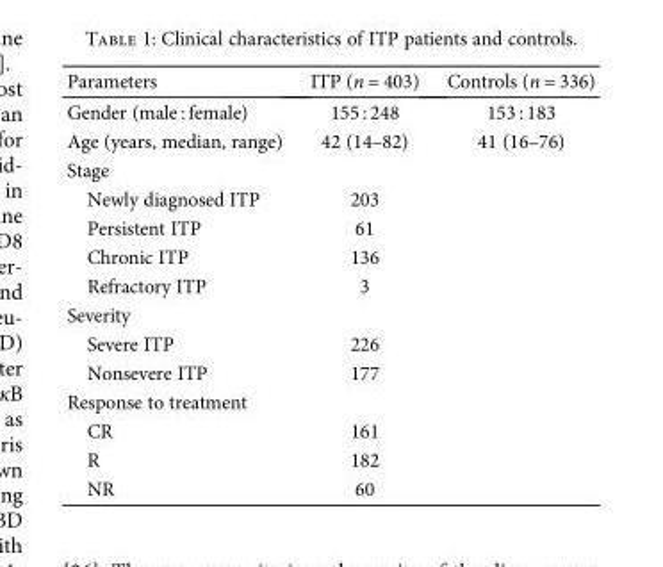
<table><thead><tr><td>Parameters</td><td>ITP (n = 403)</td><td>Controls (n = 336)</td></tr></thead><tbody><tr><td>Gender (male : female)</td><td>155 : 248</td><td>153 : 183</td></tr><tr><td>Age (years, median, range)</td><td>42 (14–82)</td><td>41 (16–76)</td></tr><tr><td colspan="3">Stage</td></tr><tr><td>Newly diagnosed ITP</td><td>203</td><td></td></tr><tr><td>Persistent ITP</td><td>61</td><td></td></tr><tr><td>Chronic ITP</td><td>136</td><td></td></tr><tr><td>Refractory ITP</td><td>3</td><td></td></tr><tr><td colspan="3">Severity</td></tr><tr><td>Severe ITP</td><td>226</td><td></td></tr><tr><td>Nonsevere ITP</td><td>177</td><td></td></tr><tr><td colspan="3">Response to treatment</td></tr><tr><td>CR</td><td>161</td><td></td></tr><tr><td>R</td><td>182</td><td></td></tr><tr><td>NR</td><td>60</td><td></td></tr></tbody></table>